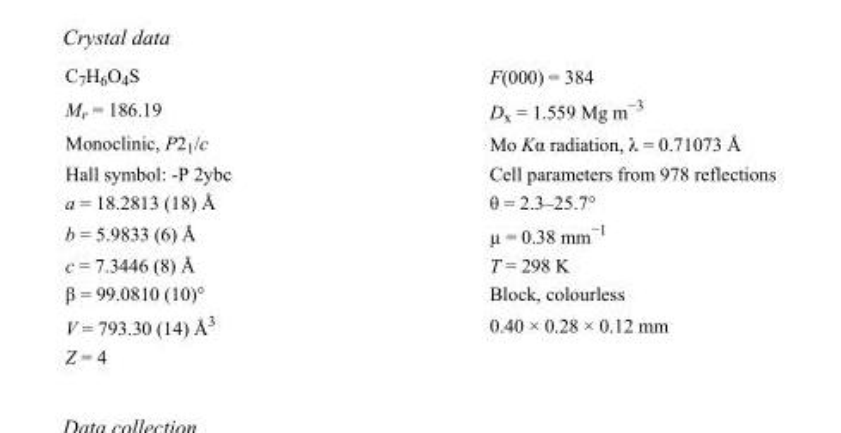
<table><tbody><tr><td>C<sub>7</sub>H<sub>6</sub>O<sub>4</sub>S</td><td>F(000) = 384</td></tr><tr><td>M<sub>r</sub> = 186.19</td><td>D<sub>x</sub> = 1.559 Mg m<sup>−3</sup></td></tr><tr><td>Monoclinic, P2<sub>1</sub>/c</td><td>Mo Kα radiation, λ = 0.71073 Å</td></tr><tr><td>Hall symbol: -P 2ybc</td><td>Cell parameters from 978 reflections</td></tr><tr><td>a = 18.2813 (18) Å</td><td>θ = 2.3–25.7°</td></tr><tr><td>b = 5.9833 (6) Å</td><td>µ = 0.38 mm<sup>−1</sup></td></tr><tr><td>c = 7.3446 (8) Å</td><td>T = 298 K</td></tr><tr><td>β = 99.0810 (10)°</td><td>Block, colourless</td></tr><tr><td>V = 793.30 (14) Å<sup>3</sup></td><td>0.40 × 0.28 × 0.12 mm</td></tr><tr><td>Z = 4</td><td></td></tr></tbody></table>